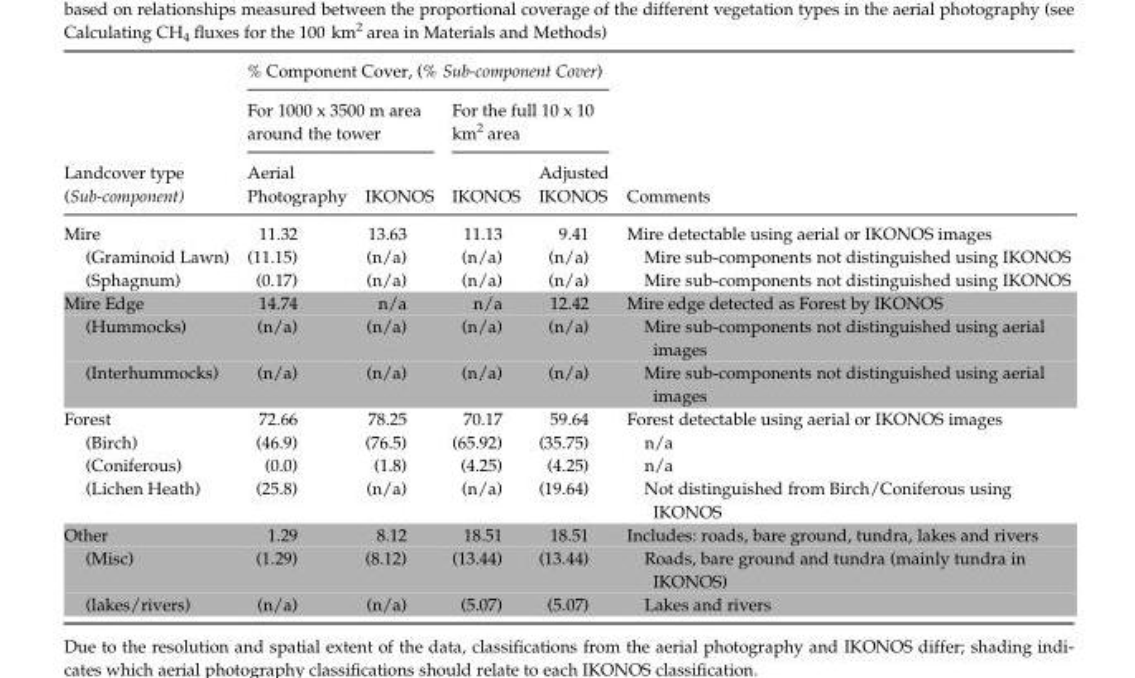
<table><thead><tr><td rowspan="3">Landcover type (Sub-component)</td><td colspan="4">% Component Cover, (% Sub-component Cover)</td><td rowspan="3">Comments</td></tr><tr><td colspan="2">For 1000 x 3500 m area around the tower</td><td colspan="2">For the full 10 x 10 km<sup>2</sup> area</td></tr><tr><td>Aerial Photography</td><td>IKONOS</td><td>IKONOS</td><td>Adjusted IKONOS</td></tr></thead><tbody><tr><td>Mire</td><td>11.32</td><td>13.63</td><td>11.13</td><td>9.41</td><td>Mire detectable using aerial or IKONOS images</td></tr><tr><td>(Graminoid Lawn)</td><td>(11.15)</td><td>(n/a)</td><td>(n/a)</td><td>(n/a)</td><td>Mire sub-components not distinguished using IKONOS</td></tr><tr><td>(Sphagnum)</td><td>(0.17)</td><td>(n/a)</td><td>(n/a)</td><td>(n/a)</td><td>Mire sub-components not distinguished using IKONOS</td></tr><tr><td>Mire Edge</td><td>14.74</td><td>n/a</td><td>n/a</td><td>12.42</td><td>Mire edge detected as Forest by IKONOS</td></tr><tr><td>(Hummocks)</td><td>(n/a)</td><td>(n/a)</td><td>(n/a)</td><td>(n/a)</td><td>Mire sub-components not distinguished using aerial images</td></tr><tr><td>(Interhummocks)</td><td>(n/a)</td><td>(n/a)</td><td>(n/a)</td><td>(n/a)</td><td>Mire sub-components not distinguished using aerial images</td></tr><tr><td>Forest</td><td>72.66</td><td>78.25</td><td>70.17</td><td>59.64</td><td>Forest detectable using aerial or IKONOS images</td></tr><tr><td>(Birch)</td><td>(46.9)</td><td>(76.5)</td><td>(65.92)</td><td>(35.75)</td><td>n/a</td></tr><tr><td>(Coniferous)</td><td>(0.0)</td><td>(1.8)</td><td>(4.25)</td><td>(4.25)</td><td>n/a</td></tr><tr><td>(Lichen Heath)</td><td>(25.8)</td><td>(n/a)</td><td>(n/a)</td><td>(19.64)</td><td>Not distinguished from Birch/Coniferous using IKONOS</td></tr><tr><td>Other</td><td>1.29</td><td>8.12</td><td>18.51</td><td>18.51</td><td>Includes: roads, bare ground, tundra, lakes and rivers</td></tr><tr><td>(Misc)</td><td>(1.29)</td><td>(8.12)</td><td>(13.44)</td><td>(13.44)</td><td>Roads, bare ground and tundra (mainly tundra in IKONOS)</td></tr><tr><td>(lakes/rivers)</td><td>(n/a)</td><td>(n/a)</td><td>(5.07)</td><td>(5.07)</td><td>Lakes and rivers</td></tr></tbody></table>